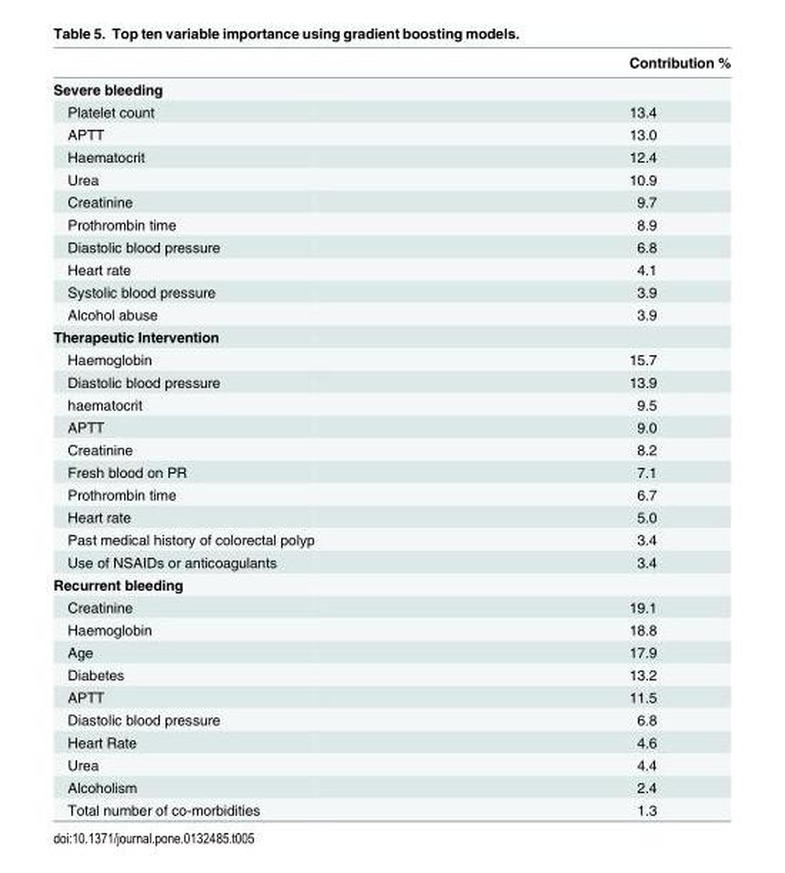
<table><thead><tr><td></td><td>Contribution %</td></tr></thead><tbody><tr><td colspan="2">Severe bleeding</td></tr><tr><td>Platelet count</td><td>13.4</td></tr><tr><td>APTT</td><td>13.0</td></tr><tr><td>Haematocrit</td><td>12.4</td></tr><tr><td>Urea</td><td>10.9</td></tr><tr><td>Creatinine</td><td>9.7</td></tr><tr><td>Prothrombin time</td><td>8.9</td></tr><tr><td>Diastolic blood pressure</td><td>6.8</td></tr><tr><td>Heart rate</td><td>4.1</td></tr><tr><td>Systolic blood pressure</td><td>3.9</td></tr><tr><td>Alcohol abuse</td><td>3.9</td></tr><tr><td colspan="2">Therapeutic Intervention</td></tr><tr><td>Haemoglobin</td><td>15.7</td></tr><tr><td>Diastolic blood pressure</td><td>13.9</td></tr><tr><td>haematocrit</td><td>9.5</td></tr><tr><td>APTT</td><td>9.0</td></tr><tr><td>Creatinine</td><td>8.2</td></tr><tr><td>Fresh blood on PR</td><td>7.1</td></tr><tr><td>Prothrombin time</td><td>6.7</td></tr><tr><td>Heart rate</td><td>5.0</td></tr><tr><td>Past medical history of colorectal polyp</td><td>3.4</td></tr><tr><td>Use of NSAIDs or anticoagulants</td><td>3.4</td></tr><tr><td colspan="2">Recurrent bleeding</td></tr><tr><td>Creatinine</td><td>19.1</td></tr><tr><td>Haemoglobin</td><td>18.8</td></tr><tr><td>Age</td><td>17.9</td></tr><tr><td>Diabetes</td><td>13.2</td></tr><tr><td>APTT</td><td>11.5</td></tr><tr><td>Diastolic blood pressure</td><td>6.8</td></tr><tr><td>Heart Rate</td><td>4.6</td></tr><tr><td>Urea</td><td>4.4</td></tr><tr><td>Alcoholism</td><td>2.4</td></tr><tr><td>Total number of co-morbidities</td><td>1.3</td></tr></tbody></table>